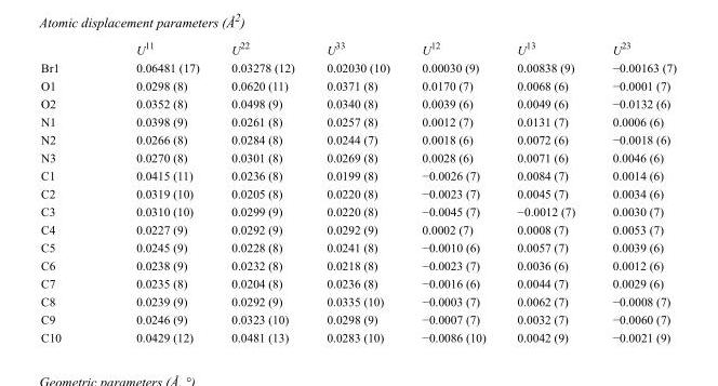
<table><thead><tr><td></td><td>U<sup>11</sup></td><td>U<sup>22</sup></td><td>U<sup>33</sup></td><td>U<sup>12</sup></td><td>U<sup>13</sup></td><td>U<sup>23</sup></td></tr></thead><tbody><tr><td>Br1</td><td>0.06481 (17)</td><td>0.03278 (12)</td><td>0.02030 (10)</td><td>0.00030 (9)</td><td>0.00838 (9)</td><td>−0.00163 (7)</td></tr><tr><td>O1</td><td>0.0298 (8)</td><td>0.0620 (11)</td><td>0.0371 (8)</td><td>0.0170 (7)</td><td>0.0068 (6)</td><td>−0.0001 (7)</td></tr><tr><td>O2</td><td>0.0352 (8)</td><td>0.0498 (9)</td><td>0.0340 (8)</td><td>0.0039 (6)</td><td>0.0049 (6)</td><td>−0.0132 (6)</td></tr><tr><td>N1</td><td>0.0398 (9)</td><td>0.0261 (8)</td><td>0.0257 (8)</td><td>0.0012 (7)</td><td>0.0131 (7)</td><td>0.0006 (6)</td></tr><tr><td>N2</td><td>0.0266 (8)</td><td>0.0284 (8)</td><td>0.0244 (7)</td><td>0.0018 (6)</td><td>0.0072 (6)</td><td>−0.0018 (6)</td></tr><tr><td>N3</td><td>0.0270 (8)</td><td>0.0301 (8)</td><td>0.0269 (8)</td><td>0.0028 (6)</td><td>0.0071 (6)</td><td>0.0046 (6)</td></tr><tr><td>C1</td><td>0.0415 (11)</td><td>0.0236 (8)</td><td>0.0199 (8)</td><td>−0.0026 (7)</td><td>0.0084 (7)</td><td>0.0014 (6)</td></tr><tr><td>C2</td><td>0.0319 (10)</td><td>0.0205 (8)</td><td>0.0220 (8)</td><td>−0.0023 (7)</td><td>0.0045 (7)</td><td>0.0034 (6)</td></tr><tr><td>C3</td><td>0.0310 (10)</td><td>0.0299 (9)</td><td>0.0220 (8)</td><td>−0.0045 (7)</td><td>−0.0012 (7)</td><td>0.0030 (7)</td></tr><tr><td>C4</td><td>0.0227 (9)</td><td>0.0292 (9)</td><td>0.0292 (9)</td><td>0.0002 (7)</td><td>0.0008 (7)</td><td>0.0053 (7)</td></tr><tr><td>C5</td><td>0.0245 (9)</td><td>0.0228 (8)</td><td>0.0241 (8)</td><td>−0.0010 (6)</td><td>0.0057 (7)</td><td>0.0039 (6)</td></tr><tr><td>C6</td><td>0.0238 (9)</td><td>0.0232 (8)</td><td>0.0218 (8)</td><td>−0.0023 (7)</td><td>0.0036 (6)</td><td>0.0012 (6)</td></tr><tr><td>C7</td><td>0.0235 (8)</td><td>0.0204 (8)</td><td>0.0236 (8)</td><td>−0.0016 (6)</td><td>0.0044 (7)</td><td>0.0029 (6)</td></tr><tr><td>C8</td><td>0.0239 (9)</td><td>0.0292 (9)</td><td>0.0335 (10)</td><td>−0.0003 (7)</td><td>0.0062 (7)</td><td>−0.0008 (7)</td></tr><tr><td>C9</td><td>0.0246 (9)</td><td>0.0323 (10)</td><td>0.0298 (9)</td><td>−0.0007 (7)</td><td>0.0032 (7)</td><td>−0.0060 (7)</td></tr><tr><td>C10</td><td>0.0429 (12)</td><td>0.0481 (13)</td><td>0.0283 (10)</td><td>−0.0086 (10)</td><td>0.0042 (9)</td><td>−0.0021 (9)</td></tr></tbody></table>